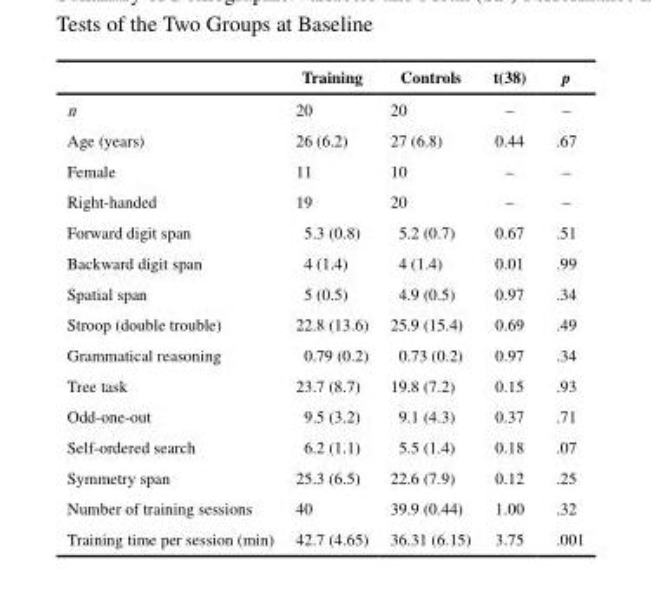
<table><thead><tr><td></td><td>Training</td><td>Controls</td><td>t(38)</td><td>p</td></tr></thead><tbody><tr><td>n</td><td>20</td><td>20</td><td>–</td><td>–</td></tr><tr><td>Age (years)</td><td>26 (6.2)</td><td>27 (6.8)</td><td>0.44</td><td>.67</td></tr><tr><td>Female</td><td>11</td><td>10</td><td>–</td><td>–</td></tr><tr><td>Right-handed</td><td>19</td><td>20</td><td>–</td><td>–</td></tr><tr><td>Forward digit span</td><td>5.3 (0.8)</td><td>5.2 (0.7)</td><td>0.67</td><td>.51</td></tr><tr><td>Backward digit span</td><td>4 (1.4)</td><td>4 (1.4)</td><td>0.01</td><td>.99</td></tr><tr><td>Spatial span</td><td>5 (0.5)</td><td>4.9 (0.5)</td><td>0.97</td><td>.34</td></tr><tr><td>Stroop (double trouble)</td><td>22.8 (13.6)</td><td>25.9 (15.4)</td><td>0.69</td><td>.49</td></tr><tr><td>Grammatical reasoning</td><td>0.79 (0.2)</td><td>0.73 (0.2)</td><td>0.97</td><td>.34</td></tr><tr><td>Tree task</td><td>23.7 (8.7)</td><td>19.8 (7.2)</td><td>0.15</td><td>.93</td></tr><tr><td>Odd-one-out</td><td>9.5 (3.2)</td><td>9.1 (4.3)</td><td>0.37</td><td>.71</td></tr><tr><td>Self-ordered search</td><td>6.2 (1.1)</td><td>5.5 (1.4)</td><td>0.18</td><td>.07</td></tr><tr><td>Symmetry span</td><td>25.3 (6.5)</td><td>22.6 (7.9)</td><td>0.12</td><td>.25</td></tr><tr><td>Number of training sessions</td><td>40</td><td>39.9 (0.44)</td><td>1.00</td><td>.32</td></tr><tr><td>Training time per session (min)</td><td>42.7 (4.65)</td><td>36.31 (6.15)</td><td>3.75</td><td>.001</td></tr></tbody></table>